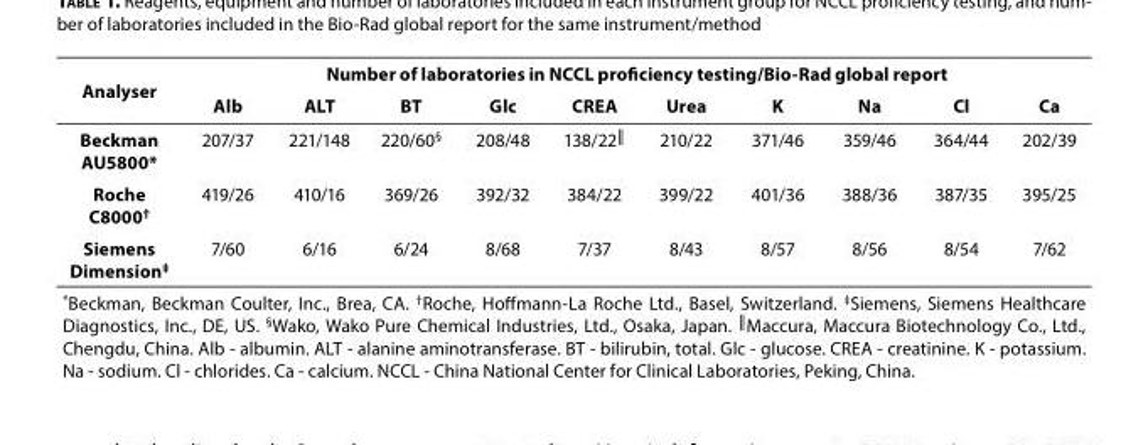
<table><thead><tr><td rowspan="2">Analyser</td><td colspan="10">Number of laboratories in NCCL proficiency testing/Bio-Rad global report</td></tr><tr><td>Alb</td><td>ALT</td><td>BT</td><td>Glc</td><td>CREA</td><td>Urea</td><td>K</td><td>Na</td><td>Cl</td><td>Ca</td></tr></thead><tbody><tr><td>Beckman AU5800*</td><td>207/37</td><td>221/148</td><td>220/60<sup>§</sup></td><td>208/48</td><td>138/22<sup>║</sup></td><td>210/22</td><td>371/46</td><td>359/46</td><td>364/44</td><td>202/39</td></tr><tr><td>Roche C8000<sup>†</sup></td><td>419/26</td><td>410/16</td><td>369/26</td><td>392/32</td><td>384/22</td><td>399/22</td><td>401/36</td><td>388/36</td><td>387/35</td><td>395/25</td></tr><tr><td>Siemens Dimension<sup>‡</sup></td><td>7/60</td><td>6/16</td><td>6/24</td><td>8/68</td><td>7/37</td><td>8/43</td><td>8/57</td><td>8/56</td><td>8/54</td><td>7/62</td></tr><tr><td colspan="11">*Beckman, Beckman Coulter, Inc., Brea, CA. <sup>†</sup>Roche, Hoffmann-La Roche Ltd., Basel, Switzerland. <sup>‡</sup>Siemens, Siemens Healthcare Diagnostics, Inc., DE, US. <sup>§</sup>Wako, Wako Pure Chemical Industries, Ltd., Osaka, Japan. <sup>║</sup>Maccura, Maccura Biotechnology Co., Ltd., Chengdu, China. Alb - albumin. ALT - alanine aminotransferase. BT - bilirubin, total. Glc - glucose. CREA - creatinine. K - potassium. Na - sodium. Cl - chlorides. Ca - calcium. NCCL - China National Center for Clinical Laboratories, Peking, China.</td></tr></tbody></table>